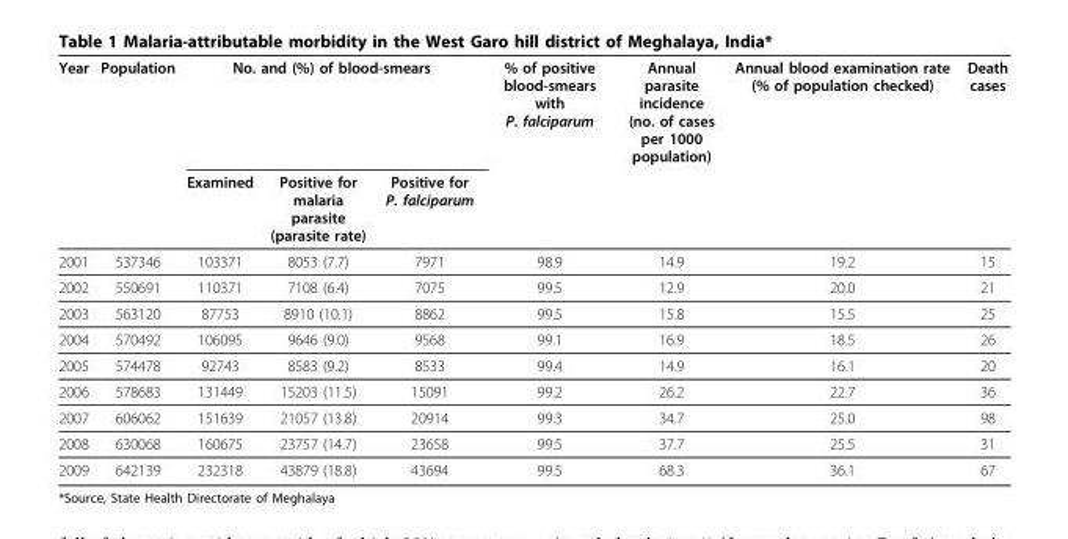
<table><thead><tr><td rowspan="2">Year</td><td rowspan="2">Population</td><td colspan="3">No. and (%) of blood-smears</td><td rowspan="2">% of positive blood-smears with P. falciparum</td><td rowspan="2">Annual parasite incidence (no. of cases per 1000 population)</td><td rowspan="2">Annual blood examination rate (% of population checked)</td><td rowspan="2">Death cases</td></tr><tr><td>Examined</td><td>Positive for malaria parasite (parasite rate)</td><td>Positive for P. falciparum</td></tr></thead><tbody><tr><td>2001</td><td>537346</td><td>103371</td><td>8053 (7.7)</td><td>7971</td><td>98.9</td><td>14.9</td><td>19.2</td><td>15</td></tr><tr><td>2002</td><td>550691</td><td>110371</td><td>7108 (6.4)</td><td>7075</td><td>99.5</td><td>12.9</td><td>20.0</td><td>21</td></tr><tr><td>2003</td><td>563120</td><td>87753</td><td>8910 (10.1)</td><td>8862</td><td>99.5</td><td>15.8</td><td>15.5</td><td>25</td></tr><tr><td>2004</td><td>570492</td><td>106095</td><td>9646 (9.0)</td><td>9568</td><td>99.1</td><td>16.9</td><td>18.5</td><td>26</td></tr><tr><td>2005</td><td>574478</td><td>92743</td><td>8583 (9.2)</td><td>8533</td><td>99.4</td><td>14.9</td><td>16.1</td><td>20</td></tr><tr><td>2006</td><td>578683</td><td>131449</td><td>15203 (11.5)</td><td>15091</td><td>99.2</td><td>26.2</td><td>22.7</td><td>36</td></tr><tr><td>2007</td><td>606062</td><td>151639</td><td>21057 (13.8)</td><td>20914</td><td>99.3</td><td>34.7</td><td>25.0</td><td>98</td></tr><tr><td>2008</td><td>630068</td><td>160675</td><td>23757 (14.7)</td><td>23658</td><td>99.5</td><td>37.7</td><td>25.5</td><td>31</td></tr><tr><td>2009</td><td>642139</td><td>232318</td><td>43879 (18.8)</td><td>43694</td><td>99.5</td><td>68.3</td><td>36.1</td><td>67</td></tr></tbody></table>